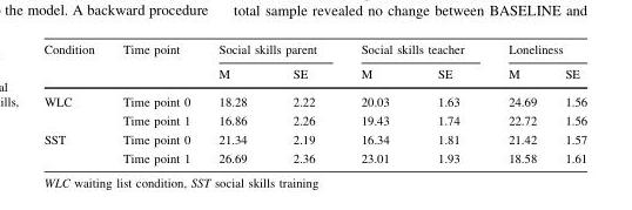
<table><thead><tr><td rowspan="2">Condition</td><td rowspan="2">Time point</td><td colspan="2">Social skills parent</td><td colspan="2">Social skills teacher</td><td colspan="2">Loneliness</td></tr><tr><td>M</td><td>SE</td><td>M</td><td>SE</td><td>M</td><td>SE</td></tr></thead><tbody><tr><td rowspan="2">WLC</td><td>Time point 0</td><td>18.28</td><td>2.22</td><td>20.03</td><td>1.63</td><td>24.69</td><td>1.56</td></tr><tr><td>Time point 1</td><td>16.86</td><td>2.26</td><td>19.43</td><td>1.74</td><td>22.72</td><td>1.56</td></tr><tr><td rowspan="2">SST</td><td>Time point 0</td><td>21.34</td><td>2.19</td><td>16.34</td><td>1.81</td><td>21.42</td><td>1.57</td></tr><tr><td>Time point 1</td><td>26.69</td><td>2.36</td><td>23.01</td><td>1.93</td><td>18.58</td><td>1.61</td></tr></tbody></table>